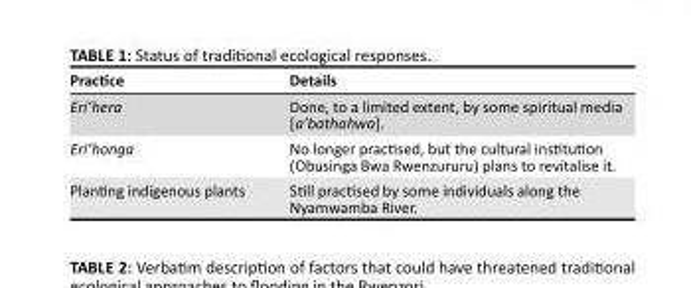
<table><thead><tr><td>Practice</td><td>Details</td></tr></thead><tbody><tr><td>Eri’hera</td><td>Done, to a limited extent, by some spiritual media [a’bathahwa].</td></tr><tr><td>Eri’honga</td><td>No longer practised, but the cultural institution (Obusinga Bwa Rwenzururu) plans to revitalise it.</td></tr><tr><td>Planting indigenous plants</td><td>Still practised by some individuals along the Nyamwamba River.</td></tr></tbody></table>